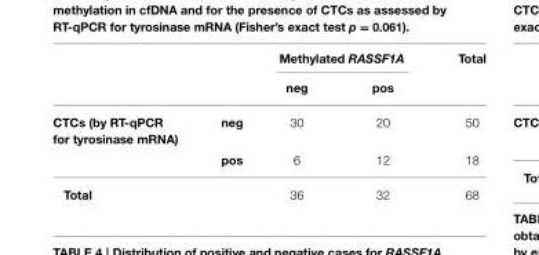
<table><thead><tr><td rowspan="2"></td><td rowspan="2"></td><td colspan="2">Methylated RASSF1A</td><td rowspan="2">Total</td></tr><tr><td>neg</td><td>pos</td></tr></thead><tbody><tr><td rowspan="2">CTCs (by RT-qPCR for tyrosinase mRNA)</td><td>neg</td><td>30</td><td>20</td><td>50</td></tr><tr><td>pos</td><td>6</td><td>12</td><td>18</td></tr><tr><td colspan="2">Total</td><td>36</td><td>32</td><td>68</td></tr></tbody></table>